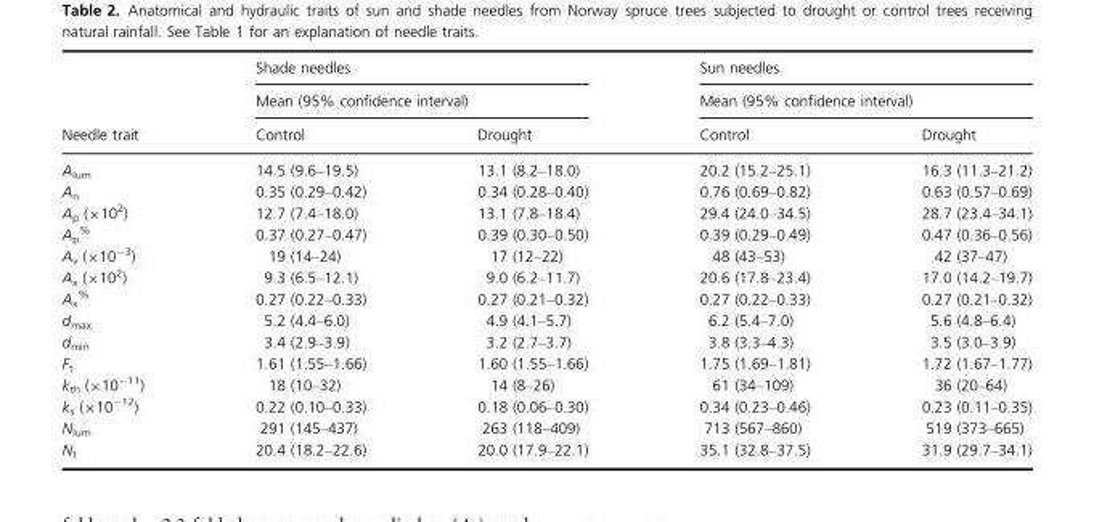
<table><thead><tr><td rowspan="3">Needle trait</td><td rowspan="2" colspan="2">Shade needles Mean (95% confidence interval)</td><td rowspan="2" colspan="2">Sun needles Mean (95% confidence interval)</td></tr><tr></tr><tr><td>Control</td><td>Drought</td><td>Control</td><td>Drought</td></tr></thead><tbody><tr><td>A<sub>lum</sub></td><td>14.5 (9.6–19.5)</td><td>13.1 (8.2–18.0)</td><td>20.2 (15.2–25.1)</td><td>16.3 (11.3–21.2)</td></tr><tr><td>A<sub>n</sub></td><td>0.35 (0.29–0.42)</td><td>0.34 (0.28–0.40)</td><td>0.76 (0.69–0.82)</td><td>0.63 (0.57–0.69)</td></tr><tr><td>A<sub>p</sub> (×10<sup>2</sup>)</td><td>12.7 (7.4–18.0)</td><td>13.1 (7.8–18.4)</td><td>29.4 (24.0–34.5)</td><td>28.7 (23.4–34.1)</td></tr><tr><td>A<sub>p</sub> <sup>%</sup></td><td>0.37 (0.27–0.47)</td><td>0.39 (0.30–0.50)</td><td>0.39 (0.29–0.49)</td><td>0.47 (0.36–0.56)</td></tr><tr><td>A<sub>v</sub> (×10<sup>−3</sup>)</td><td>19 (14–24)</td><td>17 (12–22)</td><td>48 (43–53)</td><td>42 (37–47)</td></tr><tr><td>A<sub>x</sub> (×10<sup>2</sup>)</td><td>9.3 (6.5–12.1)</td><td>9.0 (6.2–11.7)</td><td>20.6 (17.8–23.4)</td><td>17.0 (14.2–19.7)</td></tr><tr><td>A<sub>x</sub> <sup>%</sup></td><td>0.27 (0.22–0.33)</td><td>0.27 (0.21–0.32)</td><td>0.27 (0.22–0.33)</td><td>0.27 (0.21–0.32)</td></tr><tr><td>d<sub>max</sub></td><td>5.2 (4.4–6.0)</td><td>4.9 (4.1–5.7)</td><td>6.2 (5.4–7.0)</td><td>5.6 (4.8–6.4)</td></tr><tr><td>d<sub>min</sub></td><td>3.4 (2.9–3.9)</td><td>3.2 (2.7–3.7)</td><td>3.8 (3.3–4.3)</td><td>3.5 (3.0–3.9)</td></tr><tr><td>F<sub>t</sub></td><td>1.61 (1.55–1.66)</td><td>1.60 (1.55–1.66)</td><td>1.75 (1.69–1.81)</td><td>1.72 (1.67–1.77)</td></tr><tr><td>k<sub>th</sub> (×10<sup>−11</sup>)</td><td>18 (10–32)</td><td>14 (8–26)</td><td>61 (34–109)</td><td>36 (20–64)</td></tr><tr><td>k<sub>s</sub> (×10<sup>−12</sup>)</td><td>0.22 (0.10–0.33)</td><td>0.18 (0.06–0.30)</td><td>0.34 (0.23–0.46)</td><td>0.23 (0.11–0.35)</td></tr><tr><td>N<sub>lum</sub></td><td>291 (145–437)</td><td>263 (118–409)</td><td>713 (567–860)</td><td>519 (373–665)</td></tr><tr><td>N<sub>t</sub></td><td>20.4 (18.2–22.6)</td><td>20.0 (17.9–22.1)</td><td>35.1 (32.8–37.5)</td><td>31.9 (29.7–34.1)</td></tr></tbody></table>